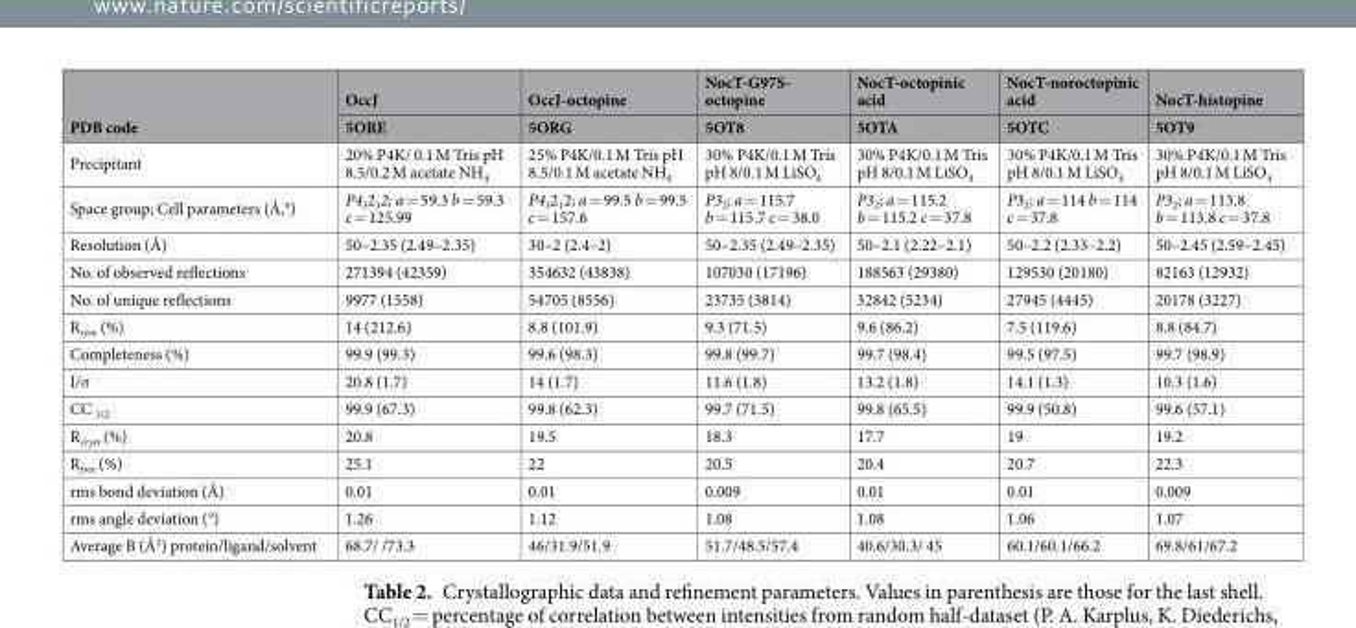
<table><thead><tr><td rowspan="2">PDB code</td><td rowspan="2">OccJ 5ORE</td><td rowspan="2">OccJ-octopine 5ORG</td><td rowspan="2">NocT-G97S- octopine 5OT8</td><td rowspan="2">NocT-octopinic acid 5OTA</td><td rowspan="2">NocT-noroctopinic acid 5OTC</td><td rowspan="2">NocT-histopine 5OT9</td></tr><tr></tr></thead><tbody><tr><td>Precipitant</td><td>20% P4K/ 0.1 M Tris pH 8.5/0.2 M acetate NH<sub>4</sub></td><td>25% P4K/0.1 M Tris pH 8.5/0.1 M acetate NH<sub>4</sub></td><td>30% P4K/0.1 M Tris pH 8/0.1 M LiSO<sub>4</sub></td><td>30% P4K/0.1 M Tris pH 8/0.1 M LiSO<sub>4</sub></td><td>30% P4K/0.1 M Tris pH 8/0.1 M LiSO<sub>4</sub></td><td>30% P4K/0.1 M Tris pH 8/0.1 M LiSO<sub>4</sub></td></tr><tr><td>Space group; Cell parameters (Å,°)</td><td>P4<sub>3</sub>2<sub>1</sub>2; a = 59.3 b = 59.3 c = 125.99</td><td>P4<sub>3</sub>2<sub>1</sub>2; a = 99.5 b = 99.5 c = 157.6</td><td>P3<sub>2</sub>; a = 115.7 b = 115.7 c = 38.0</td><td>P3<sub>2</sub>; a = 115.2 b = 115.2 c = 37.8</td><td>P3<sub>2</sub>; a = 114 b = 114 c = 37.8</td><td>P3<sub>2</sub>; a = 113.8 b = 113.8 c = 37.8</td></tr><tr><td>Resolution (Å)</td><td>50–2.35 (2.49–2.35)</td><td>30–2 (2.4–2)</td><td>50–2.35 (2.49–2.35)</td><td>50–2.1 (2.22–2.1)</td><td>50–2.2 (2.33–2.2)</td><td>50–2.45 (2.59–2.45)</td></tr><tr><td>No. of observed reflections</td><td>271394 (42359)</td><td>354632 (43838)</td><td>107030 (17196)</td><td>188563 (29380)</td><td>129530 (20180)</td><td>82163 (12932)</td></tr><tr><td>No. of unique reflections</td><td>9977 (1558)</td><td>54705 (8556)</td><td>23735 (3814)</td><td>32842 (5234)</td><td>27945 (4445)</td><td>20178 (3227)</td></tr><tr><td>R<sub>sym</sub> (%)</td><td>14 (212.6)</td><td>8.8 (101.9)</td><td>9.3 (71.5)</td><td>9.6 (86.2)</td><td>7.5 (119.6)</td><td>8.8 (84.7)</td></tr><tr><td>Completeness (%)</td><td>99.9 (99.3)</td><td>99.6 (98.3)</td><td>99.8 (99.7)</td><td>99.7 (98.4)</td><td>99.5 (97.5)</td><td>99.7 (98.9)</td></tr><tr><td>I/σ</td><td>20.8 (1.7)</td><td>14 (1.7)</td><td>11.6 (1.8)</td><td>13.2 (1.8)</td><td>14.1 (1.3)</td><td>10.3 (1.6)</td></tr><tr><td>CC <sub>1/2</sub></td><td>99.9 (67.3)</td><td>99.8 (62.3)</td><td>99.7 (71.5)</td><td>99.8 (65.5)</td><td>99.9 (50.8)</td><td>99.6 (57.1)</td></tr><tr><td>R<sub>cryst</sub> (%)</td><td>20.8</td><td>19.5</td><td>18.3</td><td>17.7</td><td>19</td><td>19.2</td></tr><tr><td>R<sub>free</sub> (%)</td><td>25.1</td><td>22</td><td>20.5</td><td>20.4</td><td>20.7</td><td>22.3</td></tr><tr><td>rms bond deviation (Å)</td><td>0.01</td><td>0.01</td><td>0.009</td><td>0.01</td><td>0.01</td><td>0.009</td></tr><tr><td>rms angle deviation (°)</td><td>1.26</td><td>1.12</td><td>1.08</td><td>1.08</td><td>1.06</td><td>1.07</td></tr><tr><td>Average B (Å<sup>2</sup>) protein/ligand/solvent</td><td>68.7/ /73.3</td><td>46/31.9/51.9</td><td>51.7/48.5/57.4</td><td>40.6/30.3/ 45</td><td>60.1/60.1/66.2</td><td>69.8/61/67.2</td></tr></tbody></table>